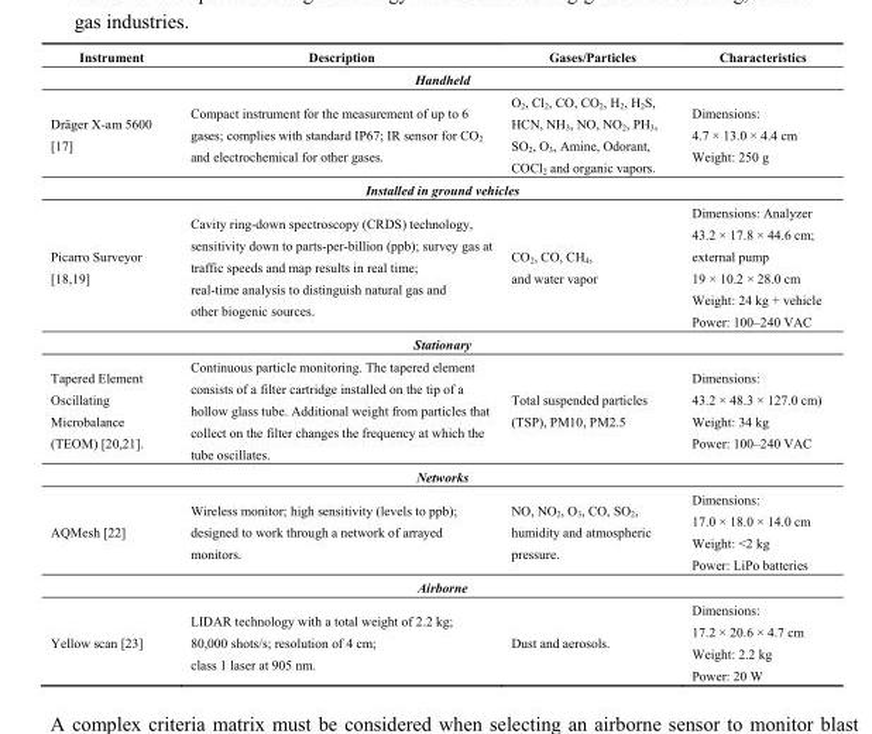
<table><thead><tr><td>Instrument</td><td>Description</td><td>Gases/Particles</td><td>Characteristics</td></tr></thead><tbody><tr><td colspan="4">Handheld</td></tr><tr><td>Dräger X-am 5600 [17]</td><td>Compact instrument for the measurement of up to 6 gases; complies with standard IP67; IR sensor for CO<sub>2</sub> and electrochemical for other gases.</td><td>O<sub>2</sub>, Cl<sub>2</sub>, CO, CO<sub>2</sub>, H<sub>2</sub>, H<sub>2</sub>S, HCN, NH<sub>3</sub>, NO, NO<sub>2</sub>, PH<sub>3</sub>, SO<sub>2</sub>, O<sub>3</sub>, Amine, Odorant, COCl<sub>2</sub> and organic vapors.</td><td>Dimensions: 4.7 × 13.0 × 4.4 cm Weight: 250 g</td></tr><tr><td colspan="4">Installed in ground vehicles</td></tr><tr><td>Picarro Surveyor [18,19]</td><td>Cavity ring-down spectroscopy (CRDS) technology, sensitivity down to parts-per-billion (ppb); survey gas at traffic speeds and map results in real time; real-time analysis to distinguish natural gas and other biogenic sources.</td><td>CO<sub>2</sub>, CO, CH<sub>4</sub>, and water vapor</td><td>Dimensions: Analyzer 43.2 × 17.8 × 44.6 cm; external pump 19 × 10.2 × 28.0 cm Weight: 24 kg + vehicle Power: 100–240 VAC</td></tr><tr><td colspan="4">Stationary</td></tr><tr><td>Tapered Element Oscillating Microbalance (TEOM) [20,21].</td><td>Continuous particle monitoring. The tapered element consists of a filter cartridge installed on the tip of a hollow glass tube. Additional weight from particles that collect on the filter changes the frequency at which the tube oscillates.</td><td>Total suspended particles (TSP), PM10, PM2.5</td><td>Dimensions: 43.2 × 48.3 × 127.0 cm) Weight: 34 kg Power: 100–240 VAC</td></tr><tr><td colspan="4">Networks</td></tr><tr><td>AQMesh [22]</td><td>Wireless monitor; high sensitivity (levels to ppb); designed to work through a network of arrayed monitors.</td><td>NO, NO<sub>2</sub>, O<sub>3</sub>, CO, SO<sub>2</sub>, humidity and atmospheric pressure.</td><td>Dimensions: 17.0 × 18.0 × 14.0 cm Weight: &lt;2 kg Power: LiPo batteries</td></tr><tr><td colspan="4">Airborne</td></tr><tr><td>Yellow scan [23]</td><td>LIDAR technology with a total weight of 2.2 kg; 80,000 shots/s; resolution of 4 cm; class 1 laser at 905 nm.</td><td>Dust and aerosols.</td><td>Dimensions: 17.2 × 20.6 × 4.7 cm Weight: 2.2 kg Power: 20 W</td></tr></tbody></table>